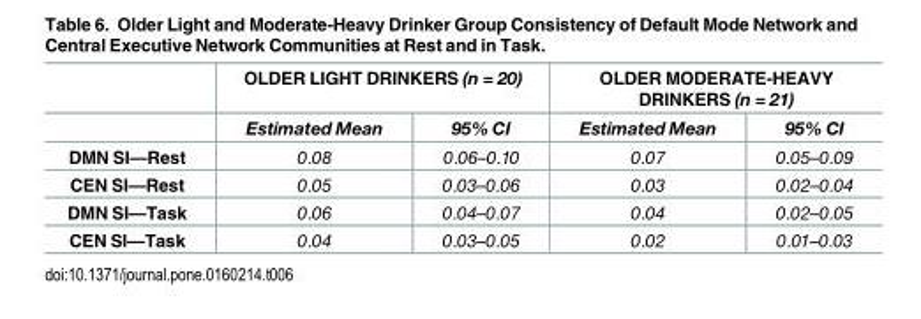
<table><thead><tr><td rowspan="2"></td><td colspan="2">OLDER LIGHT DRINKERS (n = 20)</td><td colspan="2">OLDER MODERATE-HEAVY DRINKERS (n = 21)</td></tr><tr><td>Estimated Mean</td><td>95% CI</td><td>Estimated Mean</td><td>95% CI</td></tr></thead><tbody><tr><td>DMN SI—Rest</td><td>0.08</td><td>0.06–0.10</td><td>0.07</td><td>0.05–0.09</td></tr><tr><td>CEN SI—Rest</td><td>0.05</td><td>0.03–0.06</td><td>0.03</td><td>0.02–0.04</td></tr><tr><td>DMN SI—Task</td><td>0.06</td><td>0.04–0.07</td><td>0.04</td><td>0.02–0.05</td></tr><tr><td>CEN SI—Task</td><td>0.04</td><td>0.03–0.05</td><td>0.02</td><td>0.01–0.03</td></tr></tbody></table>